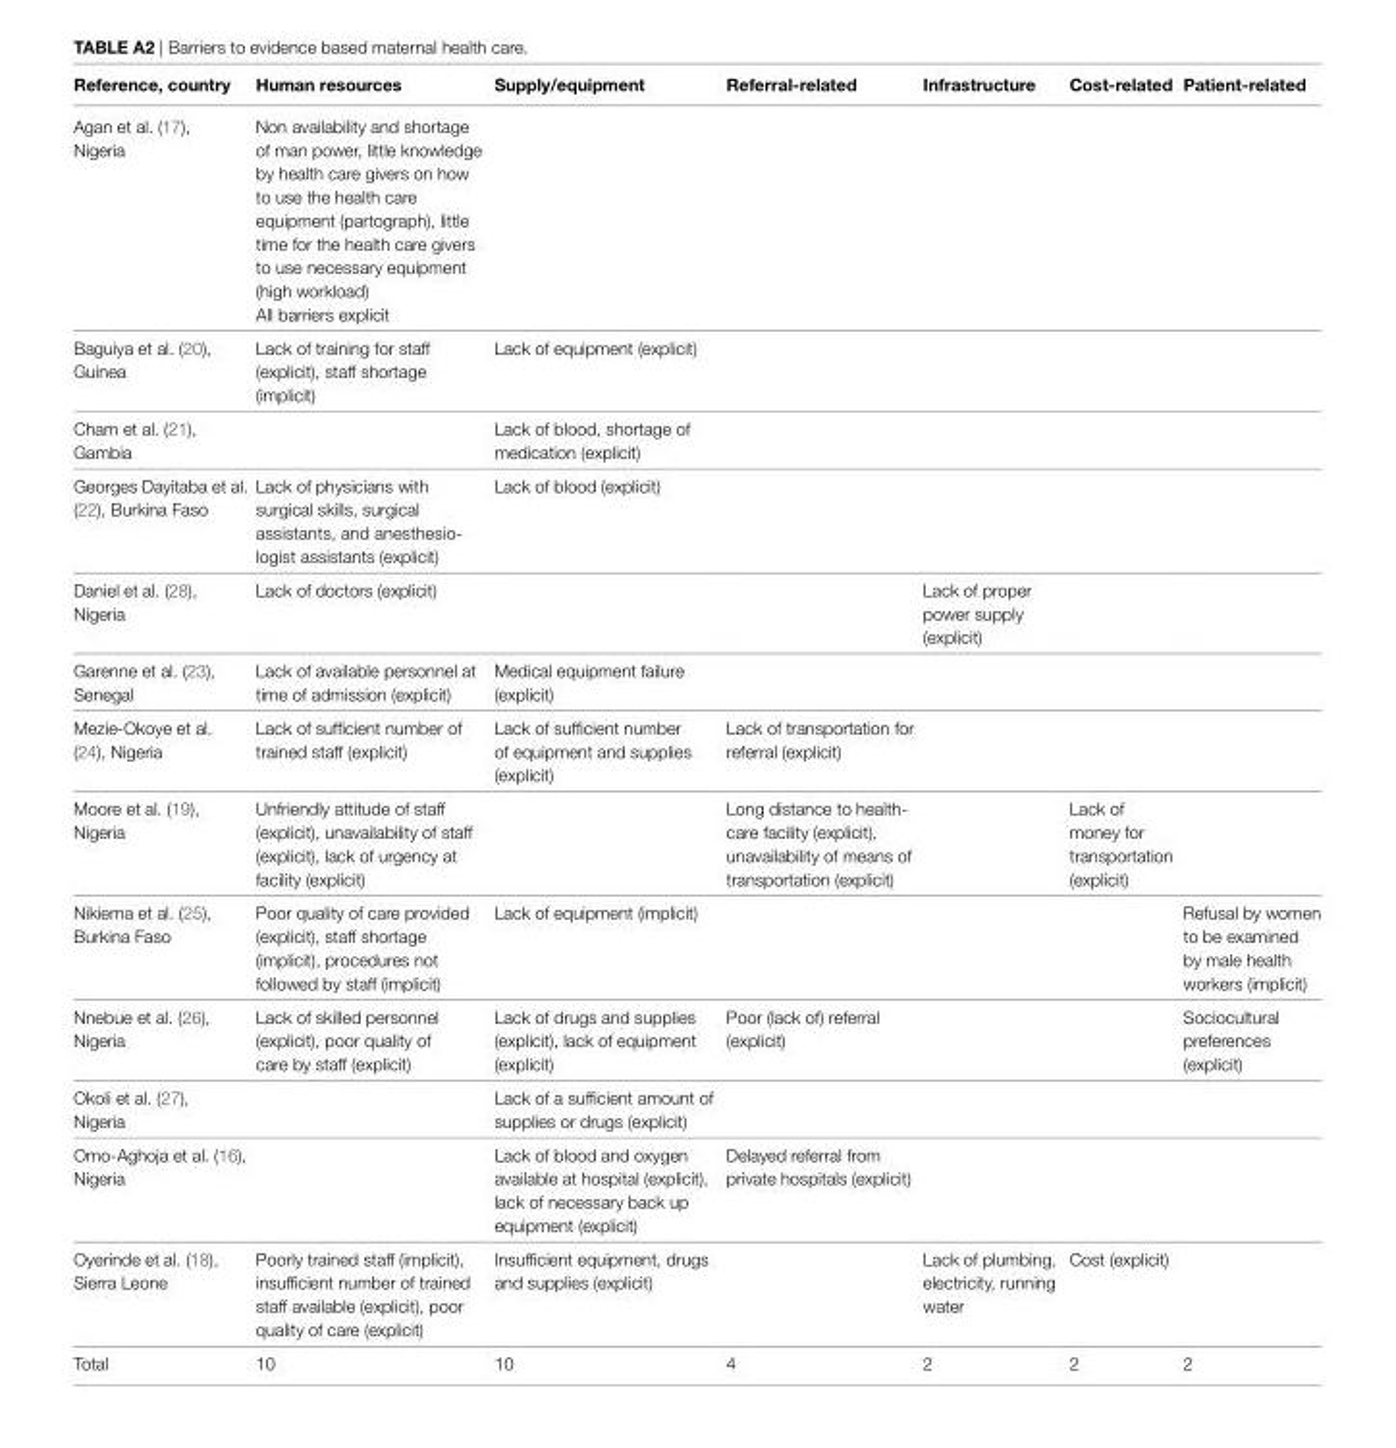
<table><thead><tr><td>Reference, country</td><td>Human resources</td><td>Supply/equipment</td><td>Referral-related</td><td>infrastructure</td><td>cost-related</td><td>Patient-related</td></tr></thead><tbody><tr><td>Agan et al. (17), Nigeria</td><td>Non availability and shortage of man power, little knowledge by health care givers on how to use the health care equipment (partograph), little time for the health care givers to use necessary equipment (high workload) All barriers explicit</td><td></td><td></td><td></td><td></td><td></td></tr><tr><td>Baguiya et al. (20), Guinea</td><td>Lack of training for staff (explicit), staff shortage (implicit)</td><td>Lack of equipment (explicit)</td><td></td><td></td><td></td><td></td></tr><tr><td>Cham et al. (21), Gambia</td><td></td><td>Lack of blood, shortage of medication (explicit)</td><td></td><td></td><td></td><td></td></tr><tr><td>Georges Dayitaba et al. (22), Burkina Faso</td><td>Lack of physicians with surgical skills, surgical assistants, and anesthesio- logist assistants (explicit)</td><td>Lack of blood (explicit)</td><td></td><td></td><td></td><td></td></tr><tr><td>Daniel et al. (28), Nigeria</td><td>Lack of doctors (explicit)</td><td></td><td></td><td>Lack of proper power supply (explicit)</td><td></td><td></td></tr><tr><td>Garenne et al. (23), Senegal</td><td>Lack of available personnel at time of admission (explicit)</td><td>Medical equipment failure (explicit)</td><td></td><td></td><td></td><td></td></tr><tr><td>Mezie-Okoye et al. (24), Nigeria</td><td>Lack of sufficient number of trained staff (explicit)</td><td>Lack of sufficient number of equipment and supplies (explicit)</td><td>Lack of transportation for referral (explicit)</td><td></td><td></td><td></td></tr><tr><td>Moore et al. (19), Nigeria</td><td>Unfriendly attitude of staff (explicit), unavailability of staff (explicit), lack of urgency at facility (explicit)</td><td></td><td>Long distance to health- care facility (explicit), unavailability of means of transportation (explicit)</td><td></td><td>Lack of money for transportation (explicit)</td><td></td></tr><tr><td>Nikiema et al. (25), Burkina Faso</td><td>Poor quality of care provided (explicit), staff shortage (implicit), procedures not followed by staff (implicit)</td><td>Lack of equipment (implicit)</td><td></td><td></td><td></td><td>Refusal by women to be examined by male health workers (implicit)</td></tr><tr><td>Nnebue et al. (26), Nigeria</td><td>Lack of skilled personnel (explicit), poor quality of care by staff (explicit)</td><td>Lack of drugs and supplies (explicit), lack of equipment (explicit)</td><td>Poor (lack of) referral (explicit)</td><td></td><td></td><td>Sociocultural preferences (explicit)</td></tr><tr><td>Okoli et al. (27), Nigeria</td><td></td><td>Lack of a sufficient amount of supplies or drugs (explicit)</td><td></td><td></td><td></td><td></td></tr><tr><td>Omo-Aghoja et al. (16), Nigeria</td><td></td><td>Lack of blood and oxygen available at hospital (explicit), lack of necessary back up equipment (explicit)</td><td>Delayed referral from private hospitals (explicit)</td><td></td><td></td><td></td></tr><tr><td>Oyerinde et al. (18), Sierra Leone</td><td>Poorly trained staff (implicit), insufficient number of trained staff available (explicit), poor quality of care (explicit)</td><td>Insufficient equipment, drugs and supplies (explicit)</td><td></td><td>Lack of plumbing, electricity, running water</td><td>Cost (explicit)</td><td></td></tr><tr><td>Total</td><td>10</td><td>10</td><td>4</td><td>2</td><td>2</td><td>2</td></tr></tbody></table>